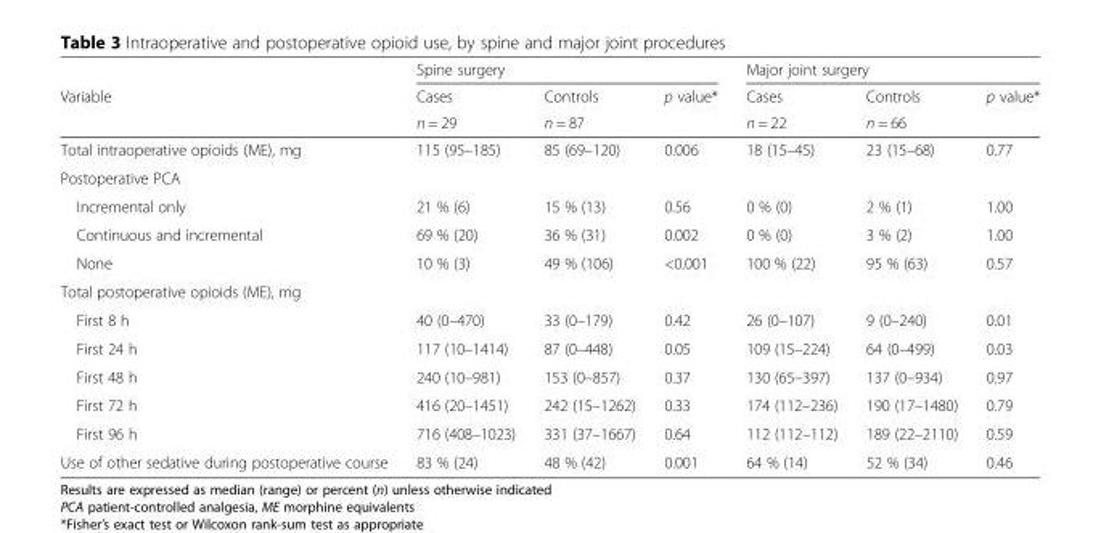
<table><thead><tr><td rowspan="3">Variable</td><td colspan="3">Spine surgery</td><td colspan="3">Major joint surgery</td></tr><tr><td rowspan="2">Cases n = 29</td><td rowspan="2">Controls n = 87</td><td rowspan="2">p value*</td><td rowspan="2">Cases n = 22</td><td rowspan="2">Controls n = 66</td><td rowspan="2">p value*</td></tr><tr></tr></thead><tbody><tr><td>Total intraoperative opioids (ME), mg</td><td>115 (95–185)</td><td>85 (69–120)</td><td>0.006</td><td>18 (15–45)</td><td>23 (15–68)</td><td>0.77</td></tr><tr><td colspan="7">Postoperative PCA</td></tr><tr><td>Incremental only</td><td>21 % (6)</td><td>15 % (13)</td><td>0.56</td><td>0 % (0)</td><td>2 % (1)</td><td>1.00</td></tr><tr><td>Continuous and incremental</td><td>69 % (20)</td><td>36 % (31)</td><td>0.002</td><td>0 % (0)</td><td>3 % (2)</td><td>1.00</td></tr><tr><td>None</td><td>10 % (3)</td><td>49 % (106)</td><td>&lt;0.001</td><td>100 % (22)</td><td>95 % (63)</td><td>0.57</td></tr><tr><td colspan="7">Total postoperative opioids (ME), mg</td></tr><tr><td>First 8 h</td><td>40 (0–470)</td><td>33 (0–179)</td><td>0.42</td><td>26 (0–107)</td><td>9 (0–240)</td><td>0.01</td></tr><tr><td>First 24 h</td><td>117 (10–1414)</td><td>87 (0–448)</td><td>0.05</td><td>109 (15–224)</td><td>64 (0–499)</td><td>0.03</td></tr><tr><td>First 48 h</td><td>240 (10–981)</td><td>153 (0–857)</td><td>0.37</td><td>130 (65–397)</td><td>137 (0–934)</td><td>0.97</td></tr><tr><td>First 72 h</td><td>416 (20–1451)</td><td>242 (15–1262)</td><td>0.33</td><td>174 (112–236)</td><td>190 (17–1480)</td><td>0.79</td></tr><tr><td>First 96 h</td><td>716 (408–1023)</td><td>331 (37–1667)</td><td>0.64</td><td>112 (112–112)</td><td>189 (22–2110)</td><td>0.59</td></tr><tr><td>Use of other sedative during postoperative course</td><td>83 % (24)</td><td>48 % (42)</td><td>0.001</td><td>64 % (14)</td><td>52 % (34)</td><td>0.46</td></tr></tbody></table>